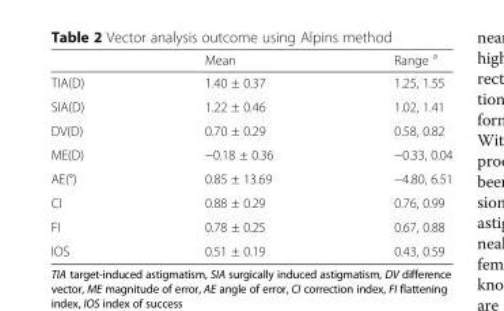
<table><thead><tr><td></td><td>Mean</td><td>Range <sup>a</sup></td></tr></thead><tbody><tr><td>TIA(D)</td><td>1.40 ± 0.37</td><td>1.25, 1.55</td></tr><tr><td>SIA(D)</td><td>1.22 ± 0.46</td><td>1.02, 1.41</td></tr><tr><td>DV(D)</td><td>0.70 ± 0.29</td><td>0.58, 0.82</td></tr><tr><td>ME(D)</td><td>−0.18 ± 0.36</td><td>−0.33, 0.04</td></tr><tr><td>AE(°)</td><td>0.85 ± 13.69</td><td>−4.80, 6.51</td></tr><tr><td>CI</td><td>0.88 ± 0.29</td><td>0.76, 0.99</td></tr><tr><td>FI</td><td>0.78 ± 0.25</td><td>0.67, 0.88</td></tr><tr><td>IOS</td><td>0.51 ± 0.19</td><td>0.43, 0.59</td></tr></tbody></table>